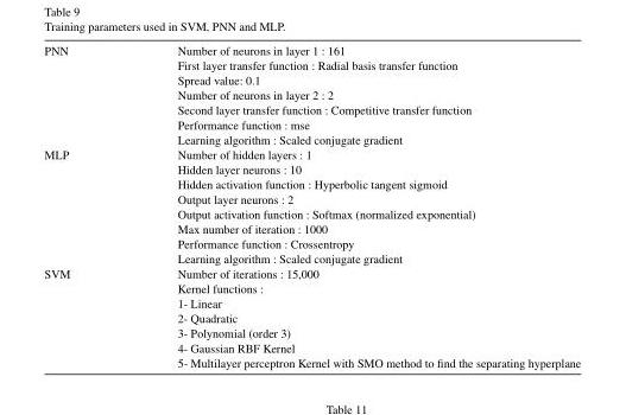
<table><tbody><tr><td rowspan="7">PNN</td><td>Number of neurons in layer 1 : 161</td></tr><tr><td>First layer transfer function : Radial basis transfer function</td></tr><tr><td>Spread value: 0.1</td></tr><tr><td>Number of neurons in layer 2 : 2</td></tr><tr><td>Second layer transfer function : Competitive transfer function</td></tr><tr><td>Performance function : mse</td></tr><tr><td>Learning algorithm : Scaled conjugate gradient</td></tr><tr><td rowspan="8">MLP</td><td>Number of hidden layers : 1</td></tr><tr><td>Hidden layer neurons : 10</td></tr><tr><td>Hidden activation function : Hyperbolic tangent sigmoid</td></tr><tr><td>Output layer neurons : 2</td></tr><tr><td>Output activation function : Softmax (normalized exponential)</td></tr><tr><td>Max number of iteration : 1000</td></tr><tr><td>Performance function : Crossentropy</td></tr><tr><td>Learning algorithm : Scaled conjugate gradient</td></tr><tr><td rowspan="7">SVM</td><td>Number of iterations : 15,000</td></tr><tr><td>Kernel functions :</td></tr><tr><td>1- Linear</td></tr><tr><td>2- Quadratic</td></tr><tr><td>3- Polynomial (order 3)</td></tr><tr><td>4- Gaussian RBF Kernel</td></tr><tr><td>5- Multilayer perceptron Kernel with SMO method to find the separating hyperplane</td></tr></tbody></table>